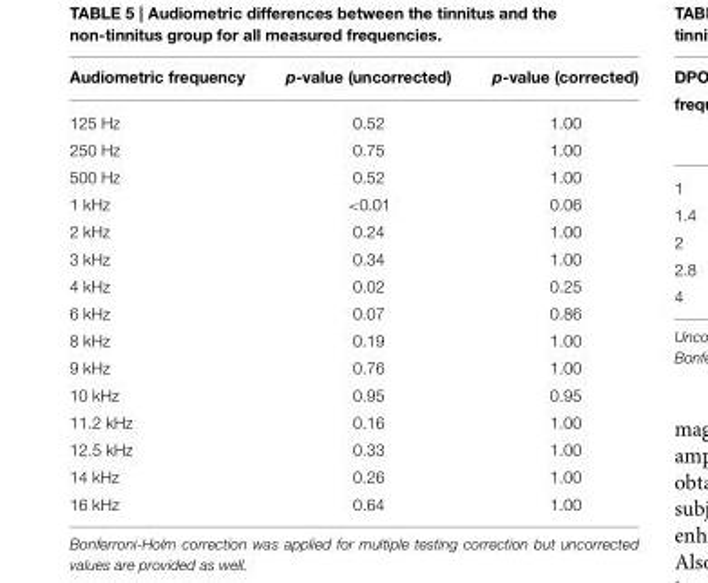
<table><thead><tr><td>Audiometric frequency</td><td>p-value (uncorrected)</td><td>p-value (corrected)</td></tr></thead><tbody><tr><td>125 Hz</td><td>0.52</td><td>1.00</td></tr><tr><td>250 Hz</td><td>0.75</td><td>1.00</td></tr><tr><td>500 Hz</td><td>0.52</td><td>1.00</td></tr><tr><td>1 kHz</td><td>&lt;0.01</td><td>0.06</td></tr><tr><td>2 kHz</td><td>0.24</td><td>1.00</td></tr><tr><td>3 kHz</td><td>0.34</td><td>1.00</td></tr><tr><td>4 kHz</td><td>0.02</td><td>0.25</td></tr><tr><td>6 kHz</td><td>0.07</td><td>0.86</td></tr><tr><td>8 kHz</td><td>0.19</td><td>1.00</td></tr><tr><td>9 kHz</td><td>0.76</td><td>1.00</td></tr><tr><td>10 kHz</td><td>0.95</td><td>0.95</td></tr><tr><td>11.2 kHz</td><td>0.16</td><td>1.00</td></tr><tr><td>12.5 kHz</td><td>0.33</td><td>1.00</td></tr><tr><td>14 kHz</td><td>0.26</td><td>1.00</td></tr><tr><td>16 kHz</td><td>0.64</td><td>1.00</td></tr></tbody></table>